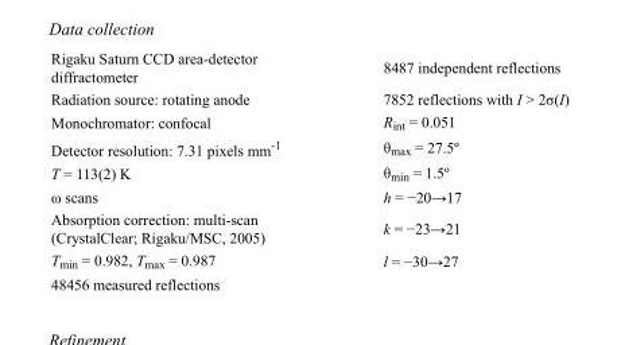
<table><tbody><tr><td>Rigaku Saturn CCD area-detector diffractometer</td><td>8487 independent reflections</td></tr><tr><td>Radiation source: rotating anode</td><td>7852 reflections with I &gt; 2σ(I)</td></tr><tr><td>Monochromator: confocal</td><td>R<sub>int</sub> = 0.051</td></tr><tr><td>Detector resolution: 7.31 pixels mm<sup>-1</sup></td><td>θ<sub>max</sub> = 27.5º</td></tr><tr><td>T = 113(2) K</td><td>θ<sub>min</sub> = 1.5º</td></tr><tr><td>ω scans</td><td>h = −20→17</td></tr><tr><td>Absorption correction: multi-scan (CrystalClear; Rigaku/MSC, 2005)</td><td>k = −23→21</td></tr><tr><td>T<sub>min</sub> = 0.982, T<sub>max</sub> = 0.987</td><td>l = −30→27</td></tr><tr><td>48456 measured reflections</td><td></td></tr></tbody></table>